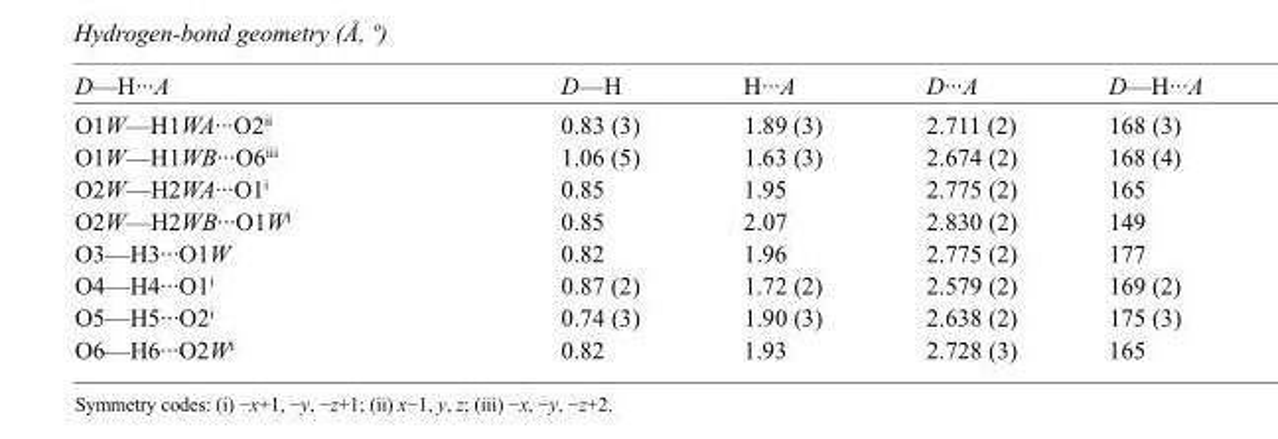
<table><tbody><tr><td>D—H···A</td><td>D—H</td><td>H···A</td><td>D···A</td><td>D—H···A</td></tr><tr><td>O1W—H1WA···O2<sup>ii</sup></td><td>0.83 (3)</td><td>1.89 (3)</td><td>2.711 (2)</td><td>168 (3)</td></tr><tr><td>O1W—H1WB···O6<sup>iii</sup></td><td>1.06 (5)</td><td>1.63 (3)</td><td>2.674 (2)</td><td>168 (4)</td></tr><tr><td>O2W—H2WA···O1<sup>i</sup></td><td>0.85</td><td>1.95</td><td>2.775 (2)</td><td>165</td></tr><tr><td>O2W—H2WB···O1W<sup>i</sup></td><td>0.85</td><td>2.07</td><td>2.830 (2)</td><td>149</td></tr><tr><td>O3—H3···O1W</td><td>0.82</td><td>1.96</td><td>2.775 (2)</td><td>177</td></tr><tr><td>O4—H4···O1<sup>i</sup></td><td>0.87 (2)</td><td>1.72 (2)</td><td>2.579 (2)</td><td>169 (2)</td></tr><tr><td>O5—H5···O2<sup>i</sup></td><td>0.74 (3)</td><td>1.90 (3)</td><td>2.638 (2)</td><td>175 (3)</td></tr><tr><td>O6—H6···O2W<sup>i</sup></td><td>0.82</td><td>1.93</td><td>2.728 (3)</td><td>165</td></tr></tbody></table>